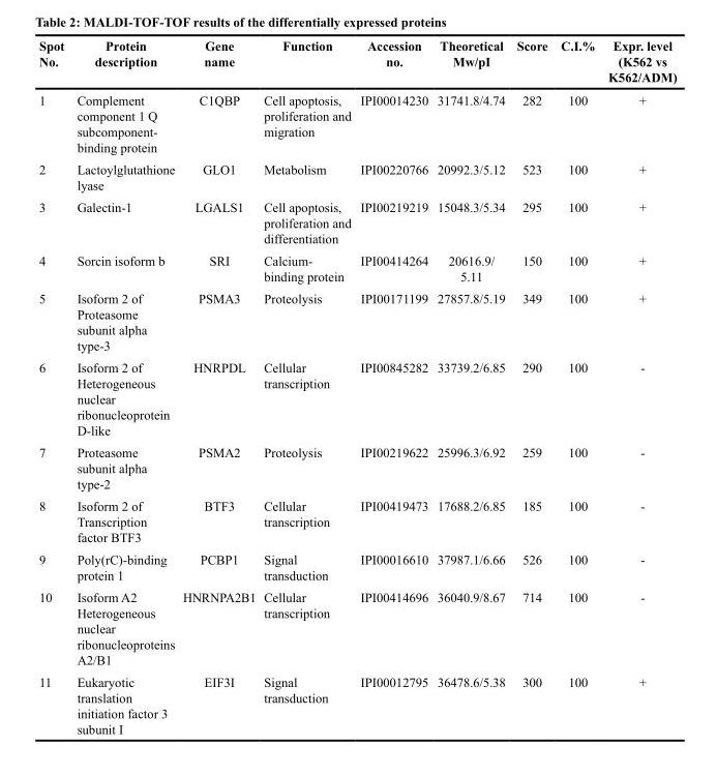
<table><thead><tr><td>Spot No.</td><td>Protein description</td><td>Gene name</td><td>Function</td><td>Accession no.</td><td>Theoretical Mw/pI</td><td>Score</td><td>C.I.%</td><td>Expr. level (K562 vs K562/ADM)</td></tr></thead><tbody><tr><td>1</td><td>Complement component 1 Q subcomponent- binding protein</td><td>C1QBP</td><td>Cell apoptosis, proliferation and migration</td><td>IPI00014230</td><td>31741.8/4.74</td><td>282</td><td>100</td><td>+</td></tr><tr><td>2</td><td>Lactoylglutathione lyase</td><td>GLO1</td><td>Metabolism</td><td>IPI00220766</td><td>20992.3/5.12</td><td>523</td><td>100</td><td>+</td></tr><tr><td>3</td><td>Galectin-1</td><td>LGALS1</td><td>Cell apoptosis, proliferation and differentiation</td><td>IPI00219219</td><td>15048.3/5.34</td><td>295</td><td>100</td><td>+</td></tr><tr><td>4</td><td>Sorcin isoform b</td><td>SRI</td><td>Calcium- binding protein</td><td>IPI00414264</td><td>20616.9/ 5.11</td><td>150</td><td>100</td><td>+</td></tr><tr><td>5</td><td>Isoform 2 of Proteasome subunit alpha type-3</td><td>PSMA3</td><td>Proteolysis</td><td>IPI00171199</td><td>27857.8/5.19</td><td>349</td><td>100</td><td>+</td></tr><tr><td>6</td><td>Isoform 2 of Heterogeneous nuclear ribonucleoprotein D-like</td><td>HNRPDL</td><td>Cellular transcription</td><td>IPI00845282</td><td>33739.2/6.85</td><td>290</td><td>100</td><td>-</td></tr><tr><td>7</td><td>Proteasome subunit alpha type-2</td><td>PSMA2</td><td>Proteolysis</td><td>IPI00219622</td><td>25996.3/6.92</td><td>259</td><td>100</td><td>-</td></tr><tr><td>8</td><td>Isoform 2 of Transcription factor BTF3</td><td>BTF3</td><td>Cellular transcription</td><td>IPI00419473</td><td>17688.2/6.85</td><td>185</td><td>100</td><td>-</td></tr><tr><td>9</td><td>Poly(rC)-binding protein 1</td><td>PCBP1</td><td>Signal transduction</td><td>IPI00016610</td><td>37987.1/6.66</td><td>526</td><td>100</td><td>-</td></tr><tr><td>10</td><td>Isoform A2 Heterogeneous nuclear ribonucleoproteins A2/B1</td><td>HNRNPA2B1</td><td>Cellular transcription</td><td>IPI00414696</td><td>36040.9/8.67</td><td>714</td><td>100</td><td>-</td></tr><tr><td>11</td><td>Eukaryotic translation initiation factor 3 subunit I</td><td>EIF3I</td><td>Signal transduction</td><td>IPI00012795</td><td>36478.6/5.38</td><td>300</td><td>100</td><td>+</td></tr></tbody></table>